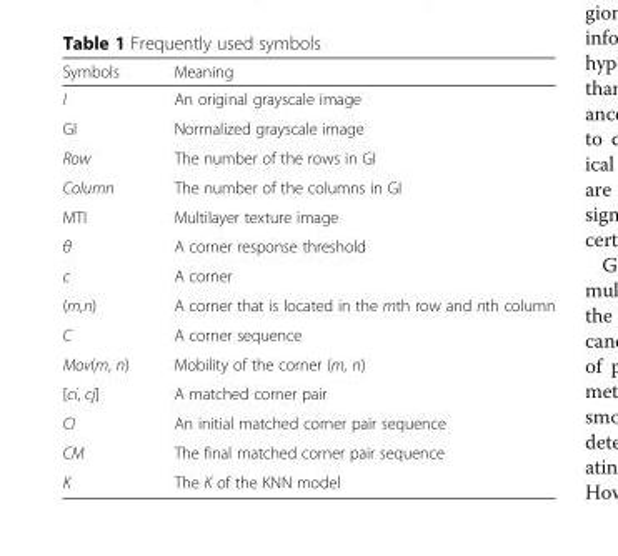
<table><thead><tr><td>Symbols</td><td>Meaning</td></tr></thead><tbody><tr><td>I</td><td>An original grayscale image</td></tr><tr><td>GI</td><td>Normalized grayscale image</td></tr><tr><td>Row</td><td>The number of the rows in GI</td></tr><tr><td>Column</td><td>The number of the columns in GI</td></tr><tr><td>MTI</td><td>Multilayer texture image</td></tr><tr><td>θ</td><td>A corner response threshold</td></tr><tr><td>c</td><td>A corner</td></tr><tr><td>(m,n)</td><td>A corner that is located in the mth row and nth column</td></tr><tr><td>C</td><td>A corner sequence</td></tr><tr><td>Mov(m, n)</td><td>Mobility of the corner (m, n)</td></tr><tr><td>[ci, cj]</td><td>A matched corner pair</td></tr><tr><td>CI</td><td>An initial matched corner pair sequence</td></tr><tr><td>CM</td><td>The final matched corner pair sequence</td></tr><tr><td>K</td><td>The K of the KNN model</td></tr></tbody></table>